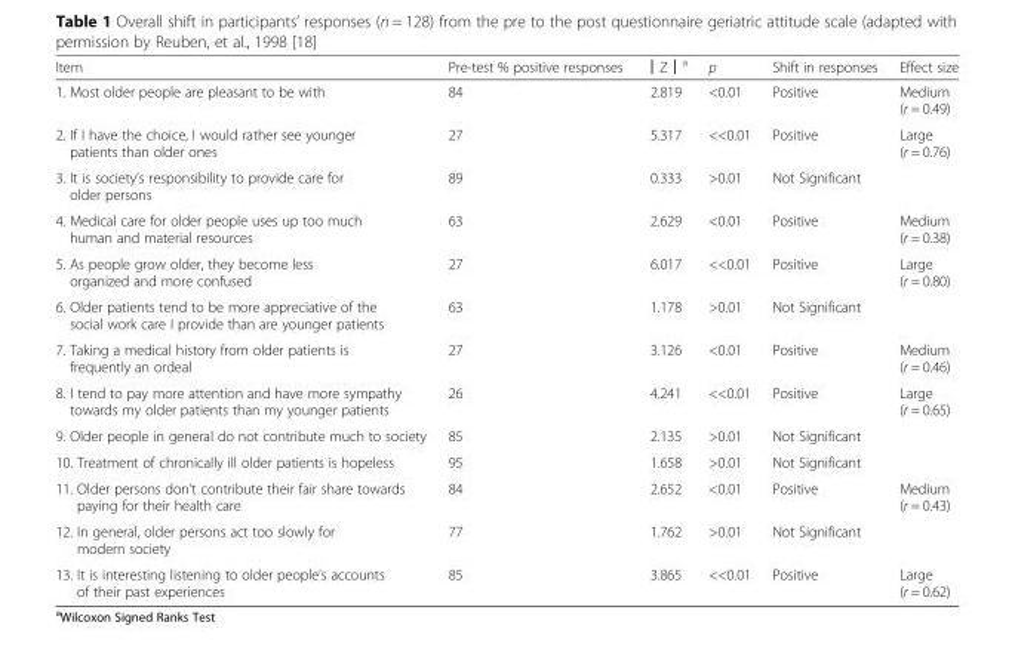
<table><thead><tr><td>Item</td><td>Pre-test % positive responses</td><td>│Z│<sup>a</sup></td><td>p</td><td>Shift in responses</td><td>Effect size</td></tr></thead><tbody><tr><td>1. Most older people are pleasant to be with</td><td>84</td><td>2.819</td><td>&lt;0.01</td><td>Positive</td><td>Medium (r = 0.49)</td></tr><tr><td>2. If I have the choice, I would rather see younger patients than older ones</td><td>27</td><td>5.317</td><td>&lt;&lt;0.01</td><td>Positive</td><td>Large (r = 0.76)</td></tr><tr><td>3. It is society’s responsibility to provide care for older persons</td><td>89</td><td>0.333</td><td>&gt;0.01</td><td>Not Significant</td><td></td></tr><tr><td>4. Medical care for older people uses up too much human and material resources</td><td>63</td><td>2.629</td><td>&lt;0.01</td><td>Positive</td><td>Medium (r = 0.38)</td></tr><tr><td>5. As people grow older, they become less organized and more confused</td><td>27</td><td>6.017</td><td>&lt;&lt;0.01</td><td>Positive</td><td>Large (r = 0.80)</td></tr><tr><td>6. Older patients tend to be more appreciative of the social work care I provide than are younger patients</td><td>63</td><td>1.178</td><td>&gt;0.01</td><td>Not Significant</td><td></td></tr><tr><td>7. Taking a medical history from older patients is frequently an ordeal</td><td>27</td><td>3.126</td><td>&lt;0.01</td><td>Positive</td><td>Medium (r = 0.46)</td></tr><tr><td>8. I tend to pay more attention and have more sympathy towards my older patients than my younger patients</td><td>26</td><td>4.241</td><td>&lt;&lt;0.01</td><td>Positive</td><td>Large (r = 0.65)</td></tr><tr><td>9. Older people in general do not contribute much to society</td><td>85</td><td>2.135</td><td>&gt;0.01</td><td>Not Significant</td><td></td></tr><tr><td>10. Treatment of chronically ill older patients is hopeless</td><td>95</td><td>1.658</td><td>&gt;0.01</td><td>Not Significant</td><td></td></tr><tr><td>11. Older persons don’t contribute their fair share towards paying for their health care</td><td>84</td><td>2.652</td><td>&lt;0.01</td><td>Positive</td><td>Medium (r = 0.43)</td></tr><tr><td>12. In general, older persons act too slowly for modern society</td><td>77</td><td>1.762</td><td>&gt;0.01</td><td>Not Significant</td><td></td></tr><tr><td>13. It is interesting listening to older people’s accounts of their past experiences</td><td>85</td><td>3.865</td><td>&lt;&lt;0.01</td><td>Positive</td><td>Large (r = 0.62)</td></tr></tbody></table>